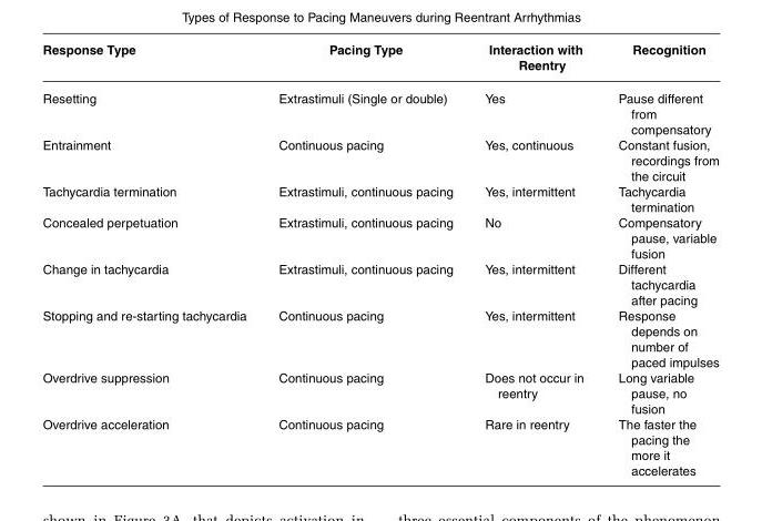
<table><thead><tr><td>Response Type</td><td>Pacing Type</td><td>Interaction with Reentry</td><td>Recognition</td></tr></thead><tbody><tr><td>Resetting</td><td>Extrastimuli (Single or double)</td><td>Yes</td><td>Pause different from compensatory</td></tr><tr><td>Entrainment</td><td>Continuous pacing</td><td>Yes, continuous</td><td>Constant fusion, recordings from the circuit</td></tr><tr><td>Tachycardia termination</td><td>Extrastimuli, continuous pacing</td><td>Yes, intermittent</td><td>Tachycardia termination</td></tr><tr><td>Concealed perpetuation</td><td>Extrastimuli, continuous pacing</td><td>No</td><td>Compensatory pause, variable fusion</td></tr><tr><td>Change in tachycardia</td><td>Extrastimuli, continuous pacing</td><td>Yes, intermittent</td><td>Different tachycardia after pacing</td></tr><tr><td>Stopping and re-starting tachycardia</td><td>Continuous pacing</td><td>Yes, intermittent</td><td>Response depends on number of paced impulses</td></tr><tr><td>Overdrive suppression</td><td>Continuous pacing</td><td>Does not occur in reentry</td><td>Long variable pause, no fusion</td></tr><tr><td>Overdrive acceleration</td><td>Continuous pacing</td><td>Rare in reentry</td><td>The faster the pacing the more it accelerates</td></tr></tbody></table>